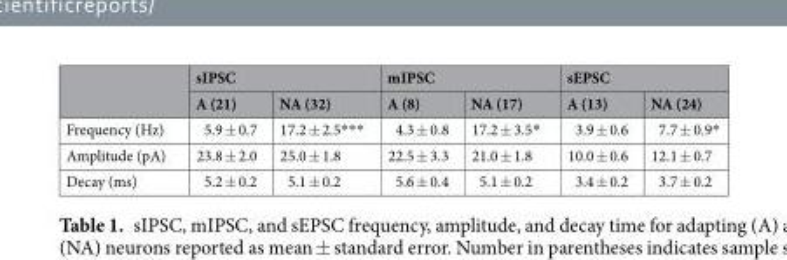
<table><thead><tr><td rowspan="2"></td><td colspan="2">sIPSC</td><td colspan="2">mIPSC</td><td colspan="2">sEPSC</td></tr><tr><td>A (21)</td><td>NA (32)</td><td>A (8)</td><td>NA (17)</td><td>A (13)</td><td>NA (24)</td></tr></thead><tbody><tr><td>Frequency (Hz)</td><td>5.9 ± 0.7</td><td>17.2 ± 2.5***</td><td>4.3 ± 0.8</td><td>17.2 ± 3.5*</td><td>3.9 ± 0.6</td><td>7.7 ± 0.9*</td></tr><tr><td>Amplitude (pA)</td><td>23.8 ± 2.0</td><td>25.0 ± 1.8</td><td>22.5 ± 3.3</td><td>21.0 ± 1.8</td><td>10.0 ± 0.6</td><td>12.1 ± 0.7</td></tr><tr><td>Decay (ms)</td><td>5.2 ± 0.2</td><td>5.1 ± 0.2</td><td>5.6 ± 0.4</td><td>5.1 ± 0.2</td><td>3.4 ± 0.2</td><td>3.7 ± 0.2</td></tr></tbody></table>